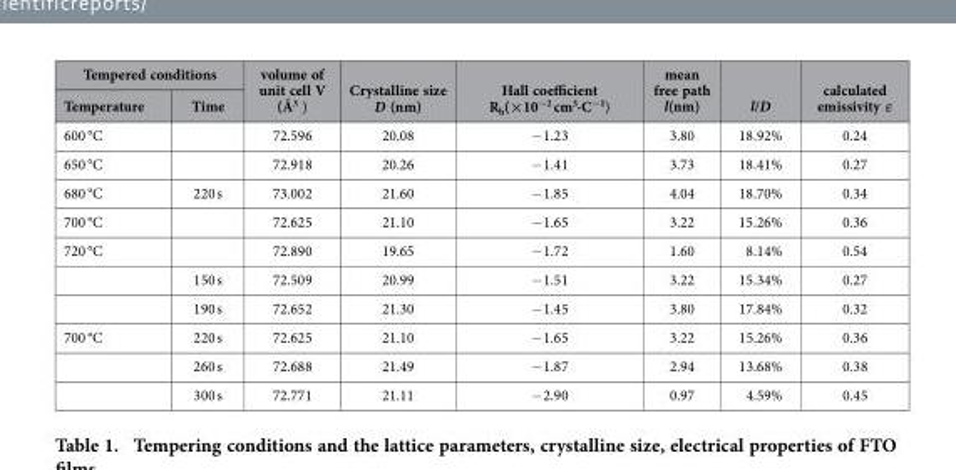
<table><thead><tr><td colspan="2">Tempered conditions</td><td rowspan="2">volume of unit cell V (Å<sup>3</sup> )</td><td rowspan="2">Crystalline size D (nm)</td><td rowspan="2">Hall coefficient R<sub>h</sub>(×10<sup>−2</sup> cm<sup>3</sup>·C<sup>−1</sup>)</td><td rowspan="2">mean free path l(nm)</td><td rowspan="2">l/D</td><td rowspan="2">calculated emissivity ε</td></tr><tr><td>Temperature</td><td>Time</td></tr></thead><tbody><tr><td>600 °C</td><td></td><td>72.596</td><td>20.08</td><td>− 1.23</td><td>3.80</td><td>18.92%</td><td>0.24</td></tr><tr><td>650 °C</td><td></td><td>72.918</td><td>20.26</td><td>− 1.41</td><td>3.73</td><td>18.41%</td><td>0.27</td></tr><tr><td>680 °C</td><td>220 s</td><td>73.002</td><td>21.60</td><td>− 1.85</td><td>4.04</td><td>18.70%</td><td>0.34</td></tr><tr><td>700 °C</td><td></td><td>72.625</td><td>21.10</td><td>− 1.65</td><td>3.22</td><td>15.26%</td><td>0.36</td></tr><tr><td rowspan="3">720 °C</td><td></td><td>72.890</td><td>19.65</td><td>− 1.72</td><td>1.60</td><td>8.14%</td><td>0.54</td></tr><tr><td>150 s</td><td>72.509</td><td>20.99</td><td>− 1.51</td><td>3.22</td><td>15.34%</td><td>0.27</td></tr><tr><td>190 s</td><td>72.652</td><td>21.30</td><td>− 1.45</td><td>3.80</td><td>17.84%</td><td>0.32</td></tr><tr><td rowspan="3">700 °C</td><td>220 s</td><td>72.625</td><td>21.10</td><td>− 1.65</td><td>3.22</td><td>15.26%</td><td>0.36</td></tr><tr><td>260 s</td><td>72.688</td><td>21.49</td><td>− 1.87</td><td>2.94</td><td>13.68%</td><td>0.38</td></tr><tr><td>300 s</td><td>72.771</td><td>21.11</td><td>− 2.90</td><td>0.97</td><td>4.59%</td><td>0.45</td></tr></tbody></table>